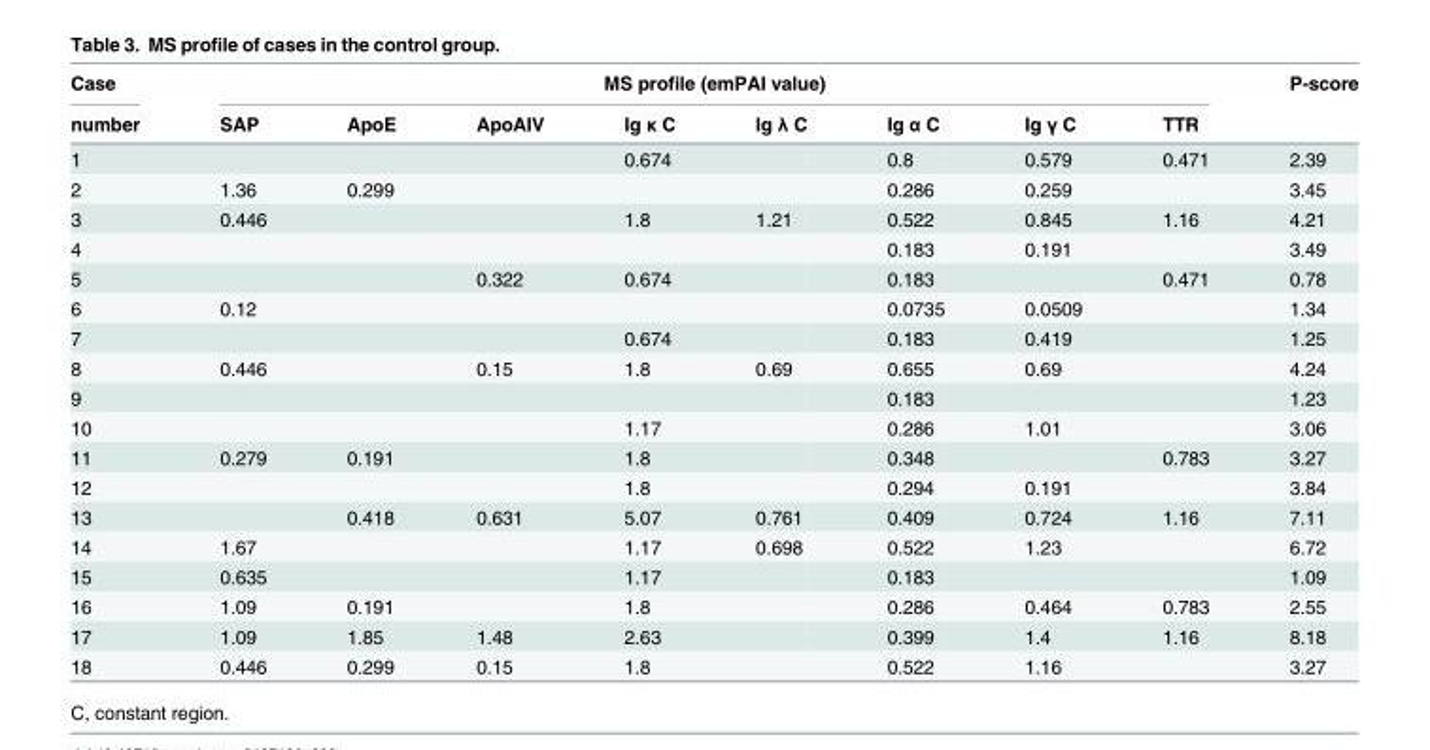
<table><thead><tr><td rowspan="2">Case number</td><td colspan="8">MS profile (emPAI value)</td><td rowspan="2">P-score</td></tr><tr><td>SAP</td><td>ApoE</td><td>ApoAIV</td><td>Ig κ C</td><td>Ig λ C</td><td>Ig α C</td><td>Ig γ C</td><td>TTR</td></tr></thead><tbody><tr><td>1</td><td></td><td></td><td></td><td>0.674</td><td></td><td>0.8</td><td>0.579</td><td>0.471</td><td>2.39</td></tr><tr><td>2</td><td>1.36</td><td>0.299</td><td></td><td></td><td></td><td>0.286</td><td>0.259</td><td></td><td>3.45</td></tr><tr><td>3</td><td>0.446</td><td></td><td></td><td>1.8</td><td>1.21</td><td>0.522</td><td>0.845</td><td>1.16</td><td>4.21</td></tr><tr><td>4</td><td></td><td></td><td></td><td></td><td></td><td>0.183</td><td>0.191</td><td></td><td>3.49</td></tr><tr><td>5</td><td></td><td></td><td>0.322</td><td>0.674</td><td></td><td>0.183</td><td></td><td>0.471</td><td>0.78</td></tr><tr><td>6</td><td>0.12</td><td></td><td></td><td></td><td></td><td>0.0735</td><td>0.0509</td><td></td><td>1.34</td></tr><tr><td>7</td><td></td><td></td><td></td><td>0.674</td><td></td><td>0.183</td><td>0.419</td><td></td><td>1.25</td></tr><tr><td>8</td><td>0.446</td><td></td><td>0.15</td><td>1.8</td><td>0.69</td><td>0.655</td><td>0.69</td><td></td><td>4.24</td></tr><tr><td>9</td><td></td><td></td><td></td><td></td><td></td><td>0.183</td><td></td><td></td><td>1.23</td></tr><tr><td>10</td><td></td><td></td><td></td><td>1.17</td><td></td><td>0.286</td><td>1.01</td><td></td><td>3.06</td></tr><tr><td>11</td><td>0.279</td><td>0.191</td><td></td><td>1.8</td><td></td><td>0.348</td><td></td><td>0.783</td><td>3.27</td></tr><tr><td>12</td><td></td><td></td><td></td><td>1.8</td><td></td><td>0.294</td><td>0.191</td><td></td><td>3.84</td></tr><tr><td>13</td><td></td><td>0.418</td><td>0.631</td><td>5.07</td><td>0.761</td><td>0.409</td><td>0.724</td><td>1.16</td><td>7.11</td></tr><tr><td>14</td><td>1.67</td><td></td><td></td><td>1.17</td><td>0.698</td><td>0.522</td><td>1.23</td><td></td><td>6.72</td></tr><tr><td>15</td><td>0.635</td><td></td><td></td><td>1.17</td><td></td><td>0.183</td><td></td><td></td><td>1.09</td></tr><tr><td>16</td><td>1.09</td><td>0.191</td><td></td><td>1.8</td><td></td><td>0.286</td><td>0.464</td><td>0.783</td><td>2.55</td></tr><tr><td>17</td><td>1.09</td><td>1.85</td><td>1.48</td><td>2.63</td><td></td><td>0.399</td><td>1.4</td><td>1.16</td><td>8.18</td></tr><tr><td>18</td><td>0.446</td><td>0.299</td><td>0.15</td><td>1.8</td><td></td><td>0.522</td><td>1.16</td><td></td><td>3.27</td></tr></tbody></table>